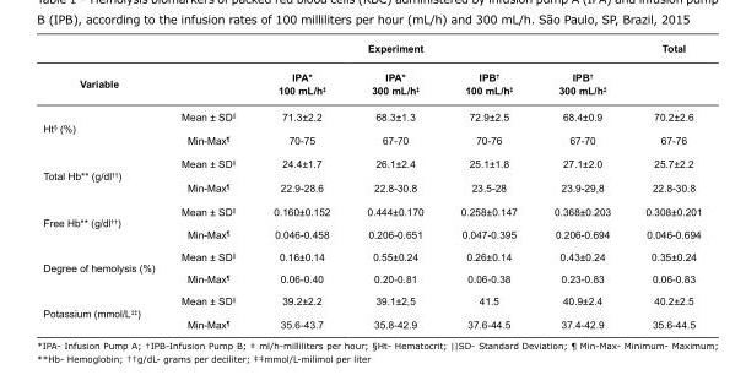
<table><thead><tr><td rowspan="2">Variable</td><td colspan="5">Experiment</td><td rowspan="2">Total</td></tr><tr><td></td><td>IPA* 100 mL/h<sup>‡</sup></td><td>IPA* 300 mL/h<sup>‡</sup></td><td>IPB<sup>†</sup> 100 mL/h<sup>‡</sup></td><td>IPB<sup>†</sup> 300 mL/h<sup>‡</sup></td></tr></thead><tbody><tr><td rowspan="2">Ht<sup>§</sup> (%)</td><td>Mean ± SD<sup>||</sup></td><td>71.3±2.2</td><td>68.3±1.3</td><td>72.9±2.5</td><td>68.4±0.9</td><td>70.2±2.6</td></tr><tr><td>Min-Max<sup>¶</sup></td><td>70-75</td><td>67-70</td><td>70-76</td><td>67-70</td><td>67-76</td></tr><tr><td rowspan="2">Total Hb** (g/dl<sup>††</sup>)</td><td>Mean ± SD<sup>||</sup></td><td>24.4±1.7</td><td>26.1±2.4</td><td>25.1±1.8</td><td>27.1±2.0</td><td>25.7±2.2</td></tr><tr><td>Min-Max<sup>¶</sup></td><td>22.9-28.6</td><td>22.8-30.8</td><td>23.5-28</td><td>23.9-29,8</td><td>22.8-30.8</td></tr><tr><td rowspan="2">Free Hb** (g/dl<sup>††</sup>)</td><td>Mean ± SD<sup>||</sup></td><td>0.160±0.152</td><td>0.444±0.170</td><td>0.258±0.147</td><td>0.368±0.203</td><td>0.308±0.201</td></tr><tr><td>Min-Max<sup>¶</sup></td><td>0.046-0.458</td><td>0.206-0.651</td><td>0.047-0.395</td><td>0.206-0.694</td><td>0.046-0.694</td></tr><tr><td rowspan="2">Degree of hemolysis (%)</td><td>Mean ± SD<sup>||</sup></td><td>0.16±0.14</td><td>0.55±0.24</td><td>0.26±0.14</td><td>0.43±0.24</td><td>0.35±0.24</td></tr><tr><td>Min-Max<sup>¶</sup></td><td>0.06-0.40</td><td>0.20-0.81</td><td>0.06-0.38</td><td>0.23-0.83</td><td>0.06-0.83</td></tr><tr><td rowspan="2">Potassium (mmol/L<sup>‡‡</sup>)</td><td>Mean ± SD<sup>||</sup></td><td>39.2±2.2</td><td>39.1±2,5</td><td>41.5</td><td>40.9±2.4</td><td>40.2±2.5</td></tr><tr><td>Min-Max<sup>¶</sup></td><td>35.6-43.7</td><td>35.8-42.9</td><td>37.6-44.5</td><td>37.4-42.9</td><td>35.6-44.5</td></tr></tbody></table>